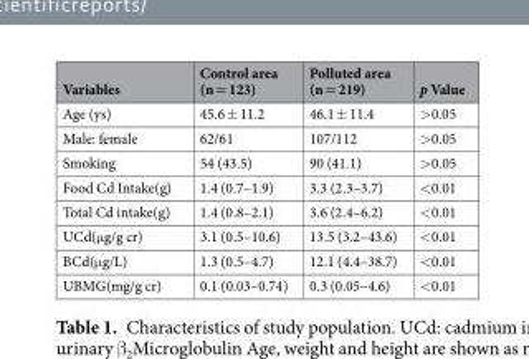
<table><thead><tr><td>Variables</td><td>Control area (n = 123)</td><td>Polluted area (n = 219)</td><td>p Value</td></tr></thead><tbody><tr><td>Age (ys)</td><td>45.6 ± 11.2</td><td>46.1 ± 11.4</td><td>&gt;0.05</td></tr><tr><td>Male: female</td><td>62/61</td><td>107/112</td><td>&gt;0.05</td></tr><tr><td>Smoking</td><td>54 (43.5)</td><td>90 (41.1)</td><td>&gt;0.05</td></tr><tr><td>Food Cd Intake(g)</td><td>1.4 (0.7–1.9)</td><td>3.3 (2.3–3.7)</td><td>&lt;0.01</td></tr><tr><td>Total Cd intake(g)</td><td>1.4 (0.8–2.1)</td><td>3.6 (2.4–6.2)</td><td>&lt;0.01</td></tr><tr><td>UCd(μg/g cr)</td><td>3.1 (0.5–10.6)</td><td>13.5 (3.2–43.6)</td><td>&lt;0.01</td></tr><tr><td>BCd(μg/L)</td><td>1.3 (0.5–4.7)</td><td>12.1 (4.4–38.7)</td><td>&lt;0.01</td></tr><tr><td>UBMG(mg/g cr)</td><td>0.1 (0.03–0.74)</td><td>0.3 (0.05–4.6)</td><td>&lt;0.01</td></tr></tbody></table>